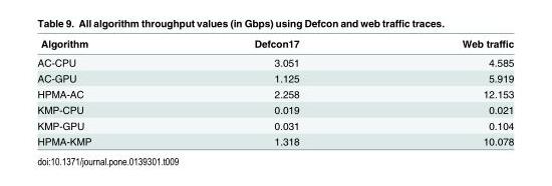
<table><thead><tr><td>Algorithm</td><td>Defcon17</td><td>Web traffic</td></tr></thead><tbody><tr><td>AC-CPU</td><td>3.051</td><td>4.585</td></tr><tr><td>AC-GPU</td><td>1.125</td><td>5.919</td></tr><tr><td>HPMA-AC</td><td>2.258</td><td>12.153</td></tr><tr><td>KMP-CPU</td><td>0.019</td><td>0.021</td></tr><tr><td>KMP-GPU</td><td>0.031</td><td>0.104</td></tr><tr><td>HPMA-KMP</td><td>1.318</td><td>10.078</td></tr></tbody></table>